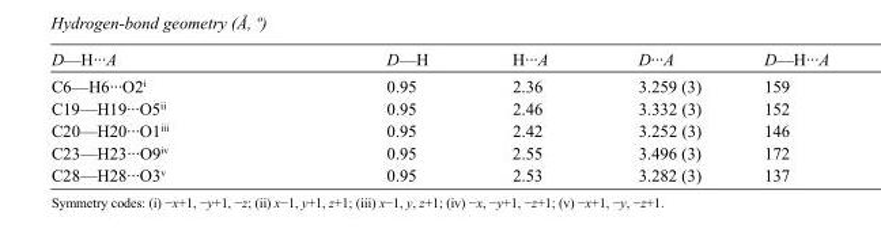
<table><tbody><tr><td>D—H···A</td><td>D—H</td><td>H···A</td><td>D···A</td><td>D—H···A</td></tr><tr><td>C6—H6···O2<sup>i</sup></td><td>0.95</td><td>2.36</td><td>3.259 (3)</td><td>159</td></tr><tr><td>C19—H19···O5<sup>ii</sup></td><td>0.95</td><td>2.46</td><td>3.332 (3)</td><td>152</td></tr><tr><td>C20—H20···O1<sup>iii</sup></td><td>0.95</td><td>2.42</td><td>3.252 (3)</td><td>146</td></tr><tr><td>C23—H23···O9<sup>iv</sup></td><td>0.95</td><td>2.55</td><td>3.496 (3)</td><td>172</td></tr><tr><td>C28—H28···O3<sup>v</sup></td><td>0.95</td><td>2.53</td><td>3.282 (3)</td><td>137</td></tr></tbody></table>